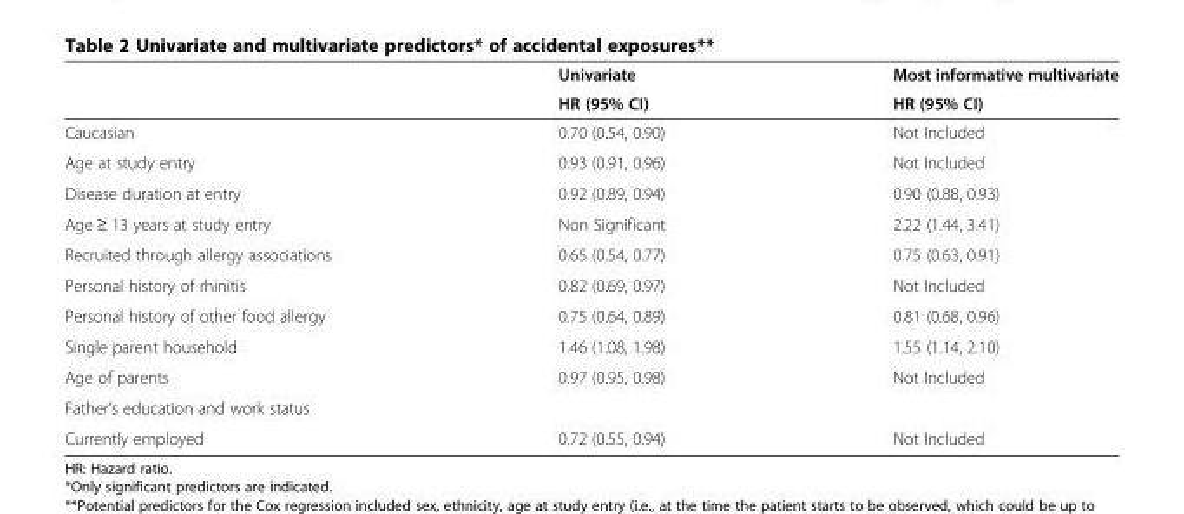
<table><thead><tr><td rowspan="2"></td><td rowspan="2">Univariate HR (95% CI)</td><td rowspan="2">Most informative multivariate HR (95% CI)</td></tr><tr></tr></thead><tbody><tr><td>Caucasian</td><td>0.70 (0.54, 0.90)</td><td>Not Included</td></tr><tr><td>Age at study entry</td><td>0.93 (0.91, 0.96)</td><td>Not Included</td></tr><tr><td>Disease duration at entry</td><td>0.92 (0.89, 0.94)</td><td>0.90 (0.88, 0.93)</td></tr><tr><td>Age ≥ 13 years at study entry</td><td>Non Significant</td><td>2.22 (1.44, 3.41)</td></tr><tr><td>Recruited through allergy associations</td><td>0.65 (0.54, 0.77)</td><td>0.75 (0.63, 0.91)</td></tr><tr><td>Personal history of rhinitis</td><td>0.82 (0.69, 0.97)</td><td>Not Included</td></tr><tr><td>Personal history of other food allergy</td><td>0.75 (0.64, 0.89)</td><td>0.81 (0.68, 0.96)</td></tr><tr><td>Single parent household</td><td>1.46 (1.08, 1.98)</td><td>1.55 (1.14, 2.10)</td></tr><tr><td>Age of parents</td><td>0.97 (0.95, 0.98)</td><td>Not Included</td></tr><tr><td colspan="3">Father’s education and work status</td></tr><tr><td>Currently employed</td><td>0.72 (0.55, 0.94)</td><td>Not Included</td></tr></tbody></table>